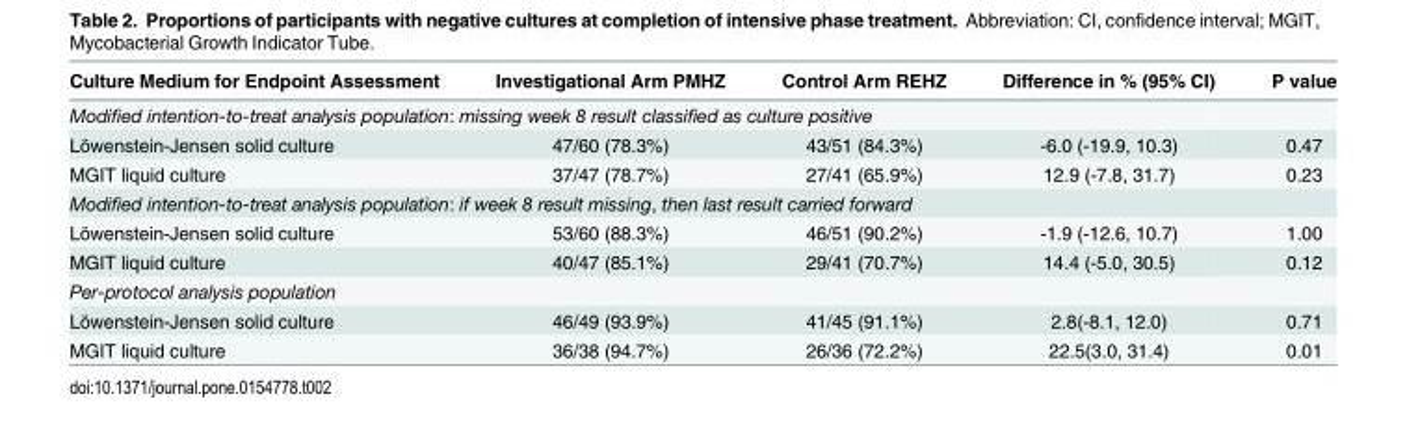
<table><thead><tr><td>Culture Medium for Endpoint Assessment</td><td>Investigational Arm PMHZ</td><td>Control Arm REHZ</td><td>Difference in % (95% CI)</td><td>P value</td></tr></thead><tbody><tr><td colspan="5">Modified intention-to-treat analysis population: missing week 8 result classified as culture positive</td></tr><tr><td>Löwenstein-Jensen solid culture</td><td>47/60 (78.3%)</td><td>43/51 (84.3%)</td><td>-6.0 (-19.9, 10.3)</td><td>0.47</td></tr><tr><td>MGIT liquid culture</td><td>37/47 (78.7%)</td><td>27/41 (65.9%)</td><td>12.9 (-7.8, 31.7)</td><td>0.23</td></tr><tr><td colspan="5">Modified intention-to-treat analysis population: if week 8 result missing, then last result carried forward</td></tr><tr><td>Löwenstein-Jensen solid culture</td><td>53/60 (88.3%)</td><td>46/51 (90.2%)</td><td>-1.9 (-12.6, 10.7)</td><td>1.00</td></tr><tr><td>MGIT liquid culture</td><td>40/47 (85.1%)</td><td>29/41 (70.7%)</td><td>14.4 (-5.0, 30.5)</td><td>0.12</td></tr><tr><td colspan="5">Per-protocol analysis population</td></tr><tr><td>Löwenstein-Jensen solid culture</td><td>46/49 (93.9%)</td><td>41/45 (91.1%)</td><td>2.8(-8.1, 12.0)</td><td>0.71</td></tr><tr><td>MGIT liquid culture</td><td>36/38 (94.7%)</td><td>26/36 (72.2%)</td><td>22.5(3.0, 31.4)</td><td>0.01</td></tr></tbody></table>